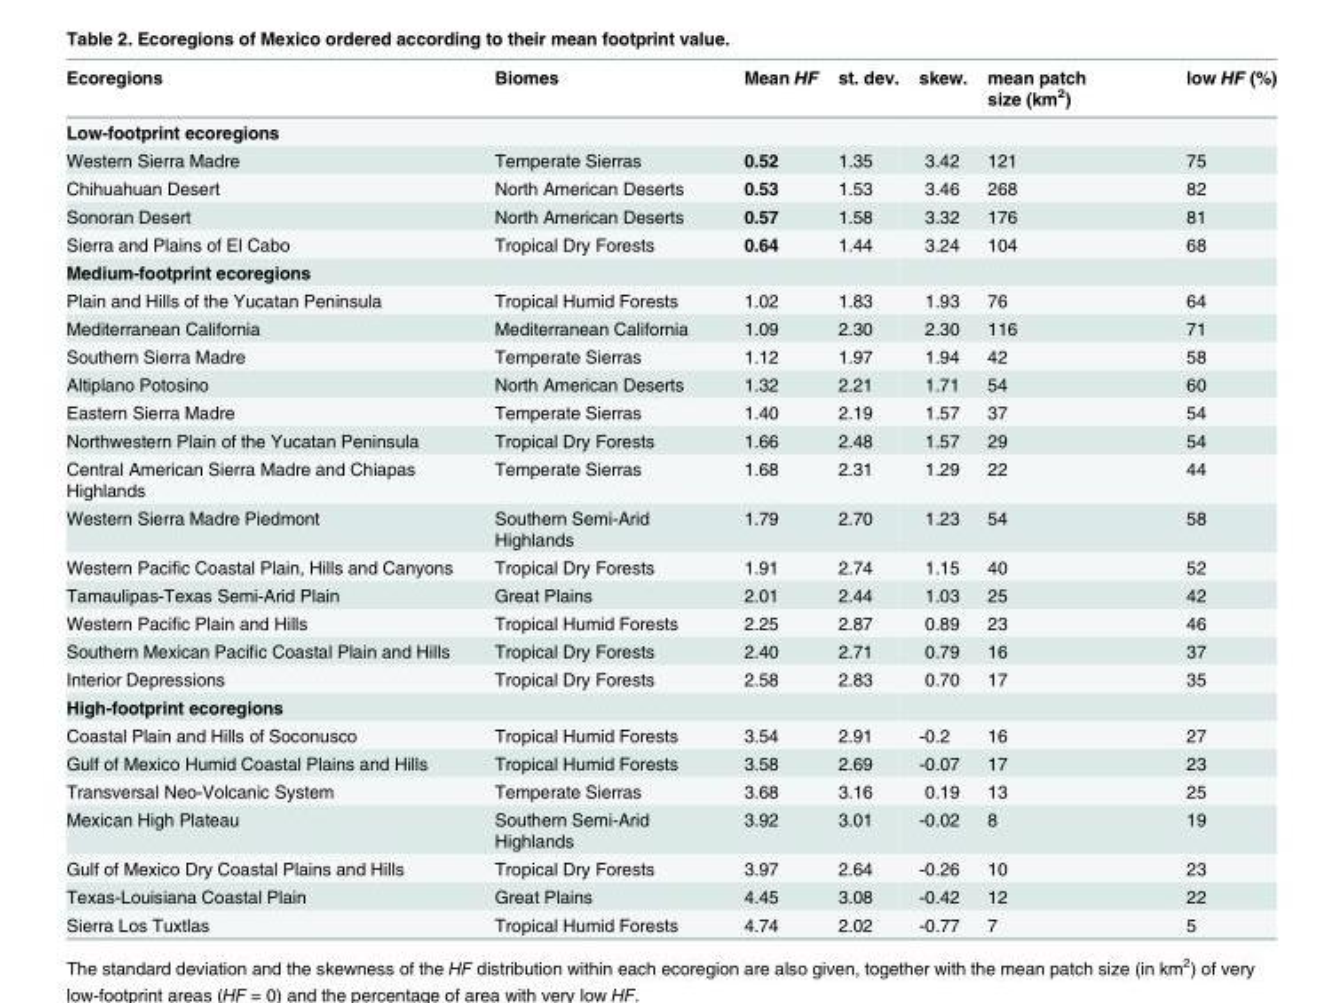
<table><thead><tr><td>Ecoregions</td><td>Biomes</td><td>Mean HF</td><td>st. dev.</td><td>skew.</td><td>mean patch size (km<sup>2</sup>)</td><td>low HF (%)</td></tr></thead><tbody><tr><td colspan="7">Low-footprint ecoregions</td></tr><tr><td>Western Sierra Madre</td><td>Temperate Sierras</td><td>0.52</td><td>1.35</td><td>3.42</td><td>121</td><td>75</td></tr><tr><td>Chihuahuan Desert</td><td>North American Deserts</td><td>0.53</td><td>1.53</td><td>3.46</td><td>268</td><td>82</td></tr><tr><td>Sonoran Desert</td><td>North American Deserts</td><td>0.57</td><td>1.58</td><td>3.32</td><td>176</td><td>81</td></tr><tr><td>Sierra and Plains of El Cabo</td><td>Tropical Dry Forests</td><td>0.64</td><td>1.44</td><td>3.24</td><td>104</td><td>68</td></tr><tr><td colspan="7">Medium-footprint ecoregions</td></tr><tr><td>Plain and Hills of the Yucatan Peninsula</td><td>Tropical Humid Forests</td><td>1.02</td><td>1.83</td><td>1.93</td><td>76</td><td>64</td></tr><tr><td>Mediterranean California</td><td>Mediterranean California</td><td>1.09</td><td>2.30</td><td>2.30</td><td>116</td><td>71</td></tr><tr><td>Southern Sierra Madre</td><td>Temperate Sierras</td><td>1.12</td><td>1.97</td><td>1.94</td><td>42</td><td>58</td></tr><tr><td>Altiplano Potosino</td><td>North American Deserts</td><td>1.32</td><td>2.21</td><td>1.71</td><td>54</td><td>60</td></tr><tr><td>Eastern Sierra Madre</td><td>Temperate Sierras</td><td>1.40</td><td>2.19</td><td>1.57</td><td>37</td><td>54</td></tr><tr><td>Northwestern Plain of the Yucatan Peninsula</td><td>Tropical Dry Forests</td><td>1.66</td><td>2.48</td><td>1.57</td><td>29</td><td>54</td></tr><tr><td>Central American Sierra Madre and Chiapas Highlands</td><td>Temperate Sierras</td><td>1.68</td><td>2.31</td><td>1.29</td><td>22</td><td>44</td></tr><tr><td>Western Sierra Madre Piedmont</td><td>Southern Semi-Arid Highlands</td><td>1.79</td><td>2.70</td><td>1.23</td><td>54</td><td>58</td></tr><tr><td>Western Pacific Coastal Plain, Hills and Canyons</td><td>Tropical Dry Forests</td><td>1.91</td><td>2.74</td><td>1.15</td><td>40</td><td>52</td></tr><tr><td>Tamaulipas-Texas Semi-Arid Plain</td><td>Great Plains</td><td>2.01</td><td>2.44</td><td>1.03</td><td>25</td><td>42</td></tr><tr><td>Western Pacific Plain and Hills</td><td>Tropical Humid Forests</td><td>2.25</td><td>2.87</td><td>0.89</td><td>23</td><td>46</td></tr><tr><td>Southern Mexican Pacific Coastal Plain and Hills</td><td>Tropical Dry Forests</td><td>2.40</td><td>2.71</td><td>0.79</td><td>16</td><td>37</td></tr><tr><td>Interior Depressions</td><td>Tropical Dry Forests</td><td>2.58</td><td>2.83</td><td>0.70</td><td>17</td><td>35</td></tr><tr><td colspan="7">High-footprint ecoregions</td></tr><tr><td>Coastal Plain and Hills of Soconusco</td><td>Tropical Humid Forests</td><td>3.54</td><td>2.91</td><td>-0.2</td><td>16</td><td>27</td></tr><tr><td>Gulf of Mexico Humid Coastal Plains and Hills</td><td>Tropical Humid Forests</td><td>3.58</td><td>2.69</td><td>-0.07</td><td>17</td><td>23</td></tr><tr><td>Transversal Neo-Volcanic System</td><td>Temperate Sierras</td><td>3.68</td><td>3.16</td><td>0.19</td><td>13</td><td>25</td></tr><tr><td>Mexican High Plateau</td><td>Southern Semi-Arid Highlands</td><td>3.92</td><td>3.01</td><td>-0.02</td><td>8</td><td>19</td></tr><tr><td>Gulf of Mexico Dry Coastal Plains and Hills</td><td>Tropical Dry Forests</td><td>3.97</td><td>2.64</td><td>-0.26</td><td>10</td><td>23</td></tr><tr><td>Texas-Louisiana Coastal Plain</td><td>Great Plains</td><td>4.45</td><td>3.08</td><td>-0.42</td><td>12</td><td>22</td></tr><tr><td>Sierra Los Tuxtlas</td><td>Tropical Humid Forests</td><td>4.74</td><td>2.02</td><td>-0.77</td><td>7</td><td>5</td></tr></tbody></table>